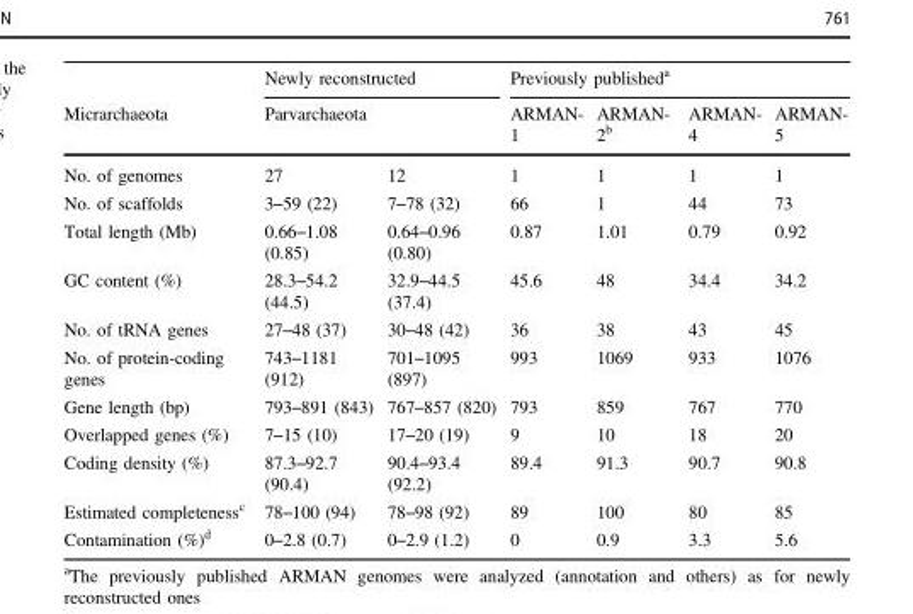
<table><thead><tr><td rowspan="3">Micrarchaeota No. of genomes</td><td rowspan="2" colspan="2">Newly reconstructed Parvarchaeota</td><td colspan="4">Previously published<sup>a</sup></td></tr><tr><td rowspan="2">ARMAN- 1 1</td><td rowspan="2">ARMAN- 2<sup>b</sup> 1</td><td rowspan="2">ARMAN- 4 1</td><td rowspan="2">ARMAN- 5 1</td></tr><tr><td>27</td><td>12</td></tr></thead><tbody><tr><td>No. of scaffolds</td><td>3–59 (22)</td><td>7–78 (32)</td><td>66</td><td>1</td><td>44</td><td>73</td></tr><tr><td>Total length (Mb)</td><td>0.66–1.08 (0.85)</td><td>0.64–0.96 (0.80)</td><td>0.87</td><td>1.01</td><td>0.79</td><td>0.92</td></tr><tr><td>GC content (%)</td><td>28.3–54.2 (44.5)</td><td>32.9–44.5 (37.4)</td><td>45.6</td><td>48</td><td>34.4</td><td>34.2</td></tr><tr><td>No. of tRNA genes</td><td>27–48 (37)</td><td>30–48 (42)</td><td>36</td><td>38</td><td>43</td><td>45</td></tr><tr><td>No. of protein-coding genes</td><td>743–1181 (912)</td><td>701–1095 (897)</td><td>993</td><td>1069</td><td>933</td><td>1076</td></tr><tr><td>Gene length (bp)</td><td>793–891 (843)</td><td>767–857 (820)</td><td>793</td><td>859</td><td>767</td><td>770</td></tr><tr><td>Overlapped genes (%)</td><td>7–15 (10)</td><td>17–20 (19)</td><td>9</td><td>10</td><td>18</td><td>20</td></tr><tr><td>Coding density (%)</td><td>87.3–92.7 (90.4)</td><td>90.4–93.4 (92.2)</td><td>89.4</td><td>91.3</td><td>90.7</td><td>90.8</td></tr><tr><td>Estimated completeness<sup>c</sup></td><td>78–100 (94)</td><td>78–98 (92)</td><td>89</td><td>100</td><td>80</td><td>85</td></tr><tr><td>Contamination (%)<sup>d</sup></td><td>0–2.8 (0.7)</td><td>0–2.9 (1.2)</td><td>0</td><td>0.9</td><td>3.3</td><td>5.6</td></tr></tbody></table>